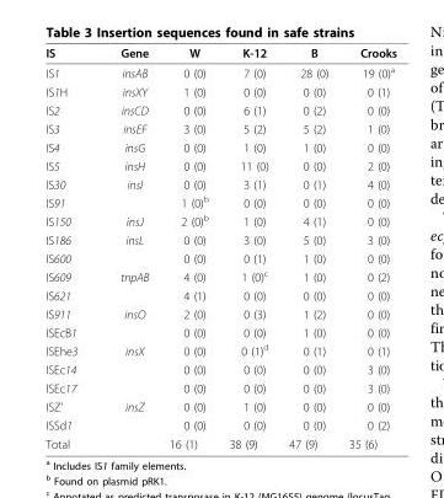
<table><thead><tr><td>IS</td><td>Gene</td><td>W</td><td>K-12</td><td>B</td><td>Crooks</td></tr></thead><tbody><tr><td>IS1</td><td>insAB</td><td>0 (0)</td><td>7 (0)</td><td>28 (0)</td><td>19 (0)<sup>a</sup></td></tr><tr><td>IS1H</td><td>insXY</td><td>1 (0)</td><td>0 (0)</td><td>0 (0)</td><td>0 (1)</td></tr><tr><td>IS2</td><td>insCD</td><td>0 (0)</td><td>6 (1)</td><td>0 (2)</td><td>0 (0)</td></tr><tr><td>IS3</td><td>insEF</td><td>3 (0)</td><td>5 (2)</td><td>5 (2)</td><td>1 (0)</td></tr><tr><td>IS4</td><td>insG</td><td>0 (0)</td><td>1 (0)</td><td>1 (0)</td><td>0 (0)</td></tr><tr><td>IS5</td><td>insH</td><td>0 (0)</td><td>11 (0)</td><td>0 (0)</td><td>2 (0)</td></tr><tr><td>IS30</td><td>insI</td><td>0 (0)</td><td>3 (1)</td><td>0 (1)</td><td>4 (0)</td></tr><tr><td>IS91</td><td></td><td>1 (0)<sup>b</sup></td><td>0 (0)</td><td>0 (0)</td><td>0 (0)</td></tr><tr><td>IS150</td><td>insJ</td><td>2 (0)<sup>b</sup></td><td>1 (0)</td><td>4 (1)</td><td>0 (0)</td></tr><tr><td>IS186</td><td>insL</td><td>0 (0)</td><td>3 (0)</td><td>5 (0)</td><td>3 (0)</td></tr><tr><td>IS600</td><td></td><td>0 (0)</td><td>0 (1)</td><td>1 (0)</td><td>0 (0)</td></tr><tr><td>IS609</td><td>tnpAB</td><td>4 (0)</td><td>1 (0)<sup>c</sup></td><td>1 (0)</td><td>0 (2)</td></tr><tr><td>IS621</td><td></td><td>4 (1)</td><td>0 (0)</td><td>0 (0)</td><td>0 (0)</td></tr><tr><td>IS911</td><td>insO</td><td>2 (0)</td><td>0 (3)</td><td>1 (2)</td><td>0 (0)</td></tr><tr><td>ISEcB1</td><td></td><td>0 (0)</td><td>0 (0)</td><td>1 (0)</td><td>0 (0)</td></tr><tr><td>ISEhe3</td><td>insX</td><td>0 (0)</td><td>0 (1)<sup>d</sup></td><td>0 (1)</td><td>0 (1)</td></tr><tr><td>ISEc14</td><td></td><td>0 (0)</td><td>0 (0)</td><td>0 (0)</td><td>3 (0)</td></tr><tr><td>ISEc17</td><td></td><td>0 (0)</td><td>0 (0)</td><td>0 (0)</td><td>3 (0)</td></tr><tr><td>ISZ’</td><td>insZ</td><td>0 (0)</td><td>1 (0)</td><td>0 (0)</td><td>0 (0)</td></tr><tr><td>ISSd1</td><td></td><td>0 (0)</td><td>0 (0)</td><td>0 (0)</td><td>0 (2)</td></tr><tr><td>Total</td><td></td><td>16 (1)</td><td>38 (9)</td><td>47 (9)</td><td>35 (6)</td></tr></tbody></table>